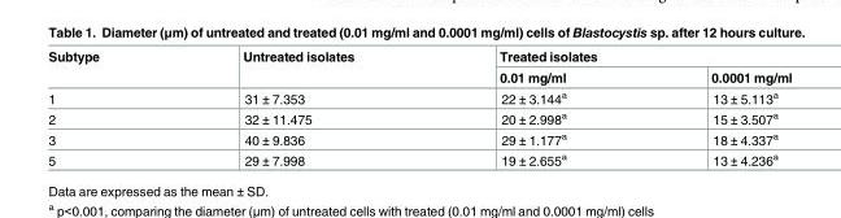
<table><thead><tr><td rowspan="2">Subtype</td><td rowspan="2">Untreated isolates</td><td colspan="2">Treated isolates</td></tr><tr><td>0.01 mg/ml</td><td>0.0001 mg/ml</td></tr></thead><tbody><tr><td>1</td><td>31 ± 7.353</td><td>22 ± 3.144<sup>a</sup></td><td>13 ± 5.113<sup>a</sup></td></tr><tr><td>2</td><td>32 ± 11.475</td><td>20 ± 2.998<sup>a</sup></td><td>15 ± 3.507<sup>a</sup></td></tr><tr><td>3</td><td>40 ± 9.836</td><td>29 ± 1.177<sup>a</sup></td><td>18 ± 4.337<sup>a</sup></td></tr><tr><td>5</td><td>29 ± 7.998</td><td>19 ± 2.655<sup>a</sup></td><td>13 ± 4.236<sup>a</sup></td></tr></tbody></table>